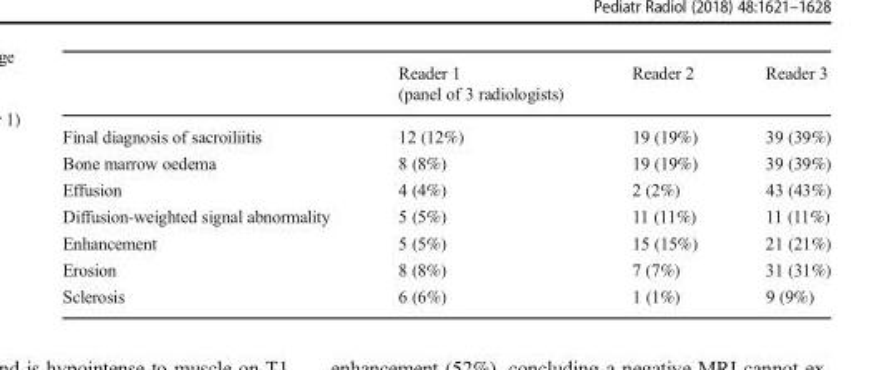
<table><thead><tr><td></td><td>Reader 1 (panel of 3 radiologists)</td><td>Reader 2</td><td>Reader 3</td></tr></thead><tbody><tr><td>Final diagnosis of sacroiliitis</td><td>12 (12%)</td><td>19 (19%)</td><td>39 (39%)</td></tr><tr><td>Bone marrow oedema</td><td>8 (8%)</td><td>19 (19%)</td><td>39 (39%)</td></tr><tr><td>Effusion</td><td>4 (4%)</td><td>2 (2%)</td><td>43 (43%)</td></tr><tr><td>Diffusion-weighted signal abnormality</td><td>5 (5%)</td><td>11 (11%)</td><td>11 (11%)</td></tr><tr><td>Enhancement</td><td>5 (5%)</td><td>15 (15%)</td><td>21 (21%)</td></tr><tr><td>Erosion</td><td>8 (8%)</td><td>7 (7%)</td><td>31 (31%)</td></tr><tr><td>Sclerosis</td><td>6 (6%)</td><td>1 (1%)</td><td>9 (9%)</td></tr></tbody></table>